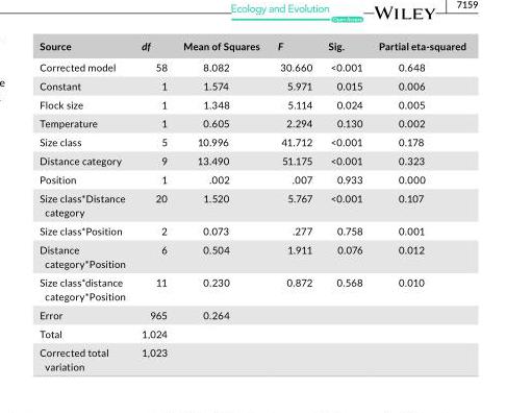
<table><thead><tr><td>Source</td><td>df</td><td>Mean of Squares</td><td>F</td><td>Sig.</td><td>Partial eta- squared</td></tr></thead><tbody><tr><td>Corrected model</td><td>58</td><td>8.082</td><td>30.660</td><td>&lt;0.001</td><td>0.648</td></tr><tr><td>Constant</td><td>1</td><td>1.574</td><td>5.971</td><td>0.015</td><td>0.006</td></tr><tr><td>Flock size</td><td>1</td><td>1.348</td><td>5.114</td><td>0.024</td><td>0.005</td></tr><tr><td>Temperature</td><td>1</td><td>0.605</td><td>2.294</td><td>0.130</td><td>0.002</td></tr><tr><td>Size class</td><td>5</td><td>10.996</td><td>41.712</td><td>&lt;0.001</td><td>0.178</td></tr><tr><td>Distance category</td><td>9</td><td>13.490</td><td>51.175</td><td>&lt;0.001</td><td>0.323</td></tr><tr><td>Position</td><td>1</td><td>.002</td><td>.007</td><td>0.933</td><td>0.000</td></tr><tr><td>Size class*Distance category</td><td>20</td><td>1.520</td><td>5.767</td><td>&lt;0.001</td><td>0.107</td></tr><tr><td>Size class*Position</td><td>2</td><td>0.073</td><td>.277</td><td>0.758</td><td>0.001</td></tr><tr><td>Distance category*Position</td><td>6</td><td>0.504</td><td>1.911</td><td>0.076</td><td>0.012</td></tr><tr><td>Size class*distance category*Position</td><td>11</td><td>0.230</td><td>0.872</td><td>0.568</td><td>0.010</td></tr><tr><td>Error</td><td>965</td><td>0.264</td><td></td><td></td><td></td></tr><tr><td>Total</td><td>1,024</td><td></td><td></td><td></td><td></td></tr><tr><td>Corrected total variation</td><td>1,023</td><td></td><td></td><td></td><td></td></tr></tbody></table>